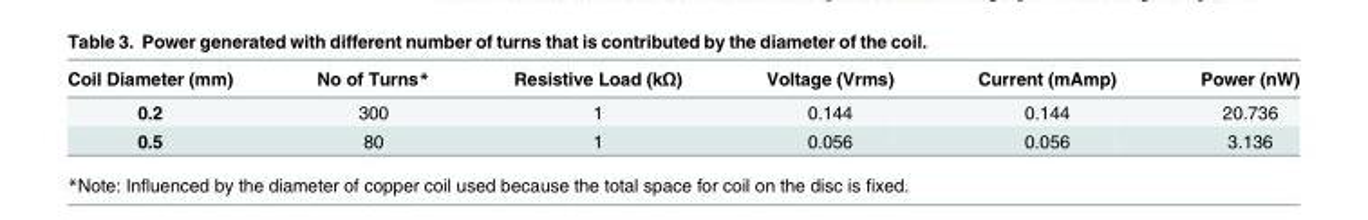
<table><thead><tr><td>Coil Diameter (mm)</td><td>No of Turns*</td><td>Resistive Load (kΩ)</td><td>Voltage (Vrms)</td><td>Current (mAmp)</td><td>Power (nW)</td></tr></thead><tbody><tr><td>0.2</td><td>300</td><td>1</td><td>0.144</td><td>0.144</td><td>20.736</td></tr><tr><td>0.5</td><td>80</td><td>1</td><td>0.056</td><td>0.056</td><td>3.136</td></tr></tbody></table>